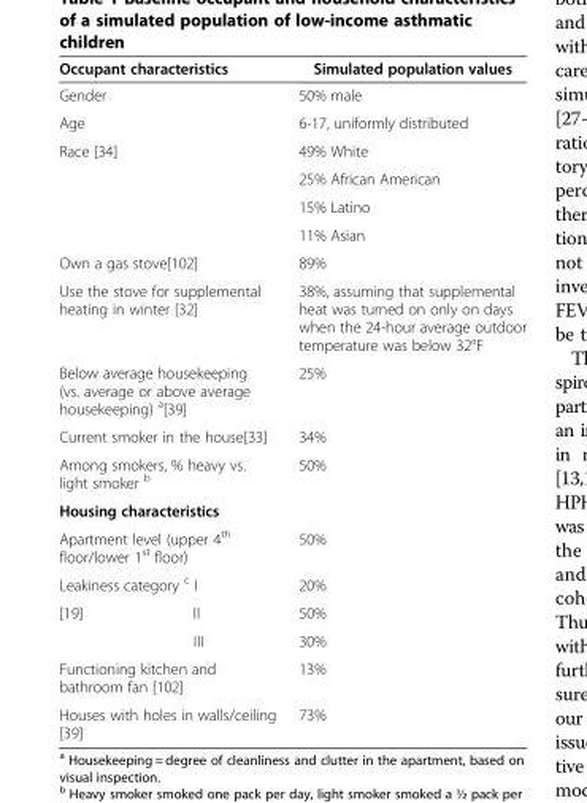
<table><thead><tr><td>Occupant characteristics</td><td>Simulated population values</td></tr></thead><tbody><tr><td>Gender</td><td>50% male</td></tr><tr><td>Age</td><td>6-17, uniformly distributed</td></tr><tr><td rowspan="4">Race [34]</td><td>49% White</td></tr><tr><td>25% African American</td></tr><tr><td>15% Latino</td></tr><tr><td>11% Asian</td></tr><tr><td>Own a gas stove[102]</td><td>89%</td></tr><tr><td>Use the stove for supplemental heating in winter [32]</td><td>38%, assuming that supplemental heat was turned on only on days when the 24-hour average outdoor temperature was below 32°F</td></tr><tr><td>Below average housekeeping (vs. average or above average housekeeping) <sup>a</sup>[39]</td><td>25%</td></tr><tr><td>Current smoker in the house[33]</td><td>34%</td></tr><tr><td>Among smokers, % heavy vs. light smoker <sup>b</sup></td><td>50%</td></tr><tr><td colspan="2">Housing characteristics</td></tr><tr><td>Apartment level (upper 4<sup>th</sup> floor/lower 1<sup>st</sup> floor)</td><td>50%</td></tr><tr><td>Leakiness category <sup>c</sup> I</td><td>20%</td></tr><tr><td>[19] II</td><td>50%</td></tr><tr><td>III</td><td>30%</td></tr><tr><td>Functioning kitchen and bathroom fan [102]</td><td>13%</td></tr><tr><td>Houses with holes in walls/ceiling [39]</td><td>73%</td></tr></tbody></table>